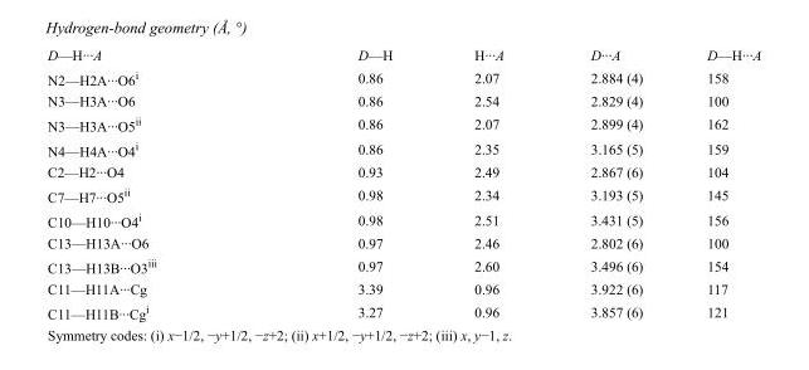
<table><tbody><tr><td>D—H···A</td><td>D—H</td><td>H···A</td><td>D···A</td><td>D—H···A</td></tr><tr><td>N2—H2A···O6<sup>i</sup></td><td>0.86</td><td>2.07</td><td>2.884 (4)</td><td>158</td></tr><tr><td>N3—H3A···O6</td><td>0.86</td><td>2.54</td><td>2.829 (4)</td><td>100</td></tr><tr><td>N3—H3A···O5<sup>ii</sup></td><td>0.86</td><td>2.07</td><td>2.899 (4)</td><td>162</td></tr><tr><td>N4—H4A···O4<sup>i</sup></td><td>0.86</td><td>2.35</td><td>3.165 (5)</td><td>159</td></tr><tr><td>C2—H2···O4</td><td>0.93</td><td>2.49</td><td>2.867 (6)</td><td>104</td></tr><tr><td>C7—H7···O5<sup>ii</sup></td><td>0.98</td><td>2.34</td><td>3.193 (5)</td><td>145</td></tr><tr><td>C10—H10···O4<sup>i</sup></td><td>0.98</td><td>2.51</td><td>3.431 (5)</td><td>156</td></tr><tr><td>C13—H13A···O6</td><td>0.97</td><td>2.46</td><td>2.802 (6)</td><td>100</td></tr><tr><td>C13—H13B···O3<sup>iii</sup></td><td>0.97</td><td>2.60</td><td>3.496 (6)</td><td>154</td></tr><tr><td>C11—H11A···Cg</td><td>3.39</td><td>0.96</td><td>3.922 (6)</td><td>117</td></tr><tr><td>C11—H11B···Cg<sup>i</sup></td><td>3.27</td><td>0.96</td><td>3.857 (6)</td><td>121</td></tr></tbody></table>